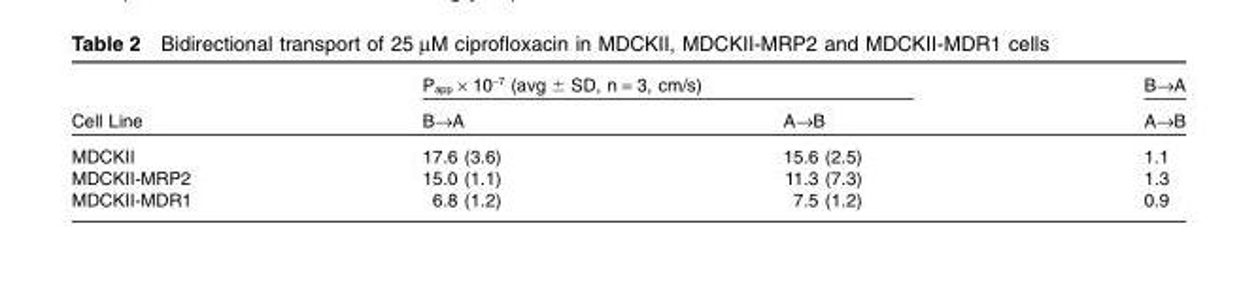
<table><thead><tr><td rowspan="2">Cell Line</td><td colspan="2">P<sub>app</sub> × 10<sup>-7</sup> (avg ± SD, n = 3, cm/s)</td><td rowspan="2">B→A A→B</td></tr><tr><td>B→A</td><td>A→B</td></tr></thead><tbody><tr><td>MDCKII</td><td>17.6 (3.6)</td><td>15.6 (2.5)</td><td>1.1</td></tr><tr><td>MDCKII-MRP2</td><td>15.0 (1.1)</td><td>11.3 (7.3)</td><td>1.3</td></tr><tr><td>MDCKII-MDR1</td><td>6.8 (1.2)</td><td>7.5 (1.2)</td><td>0.9</td></tr></tbody></table>